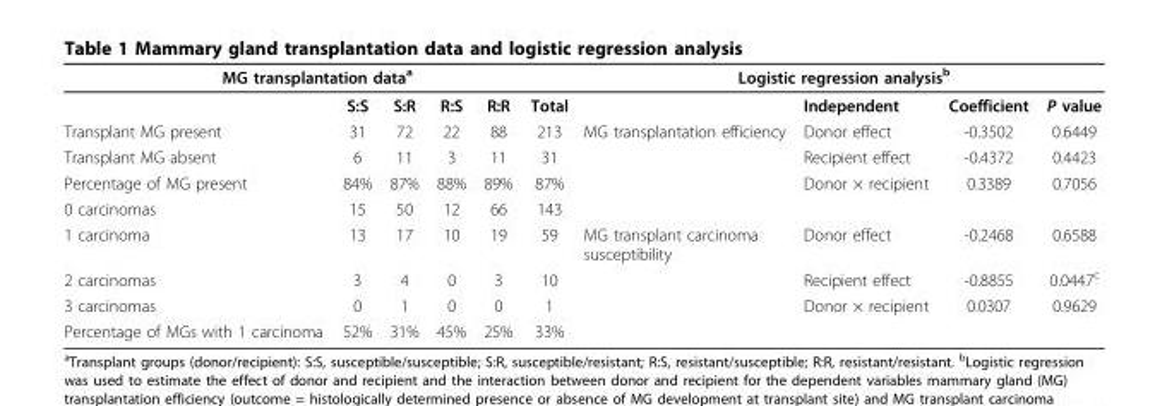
<table><thead><tr><td colspan="6">MG transplantation data<sup>a</sup></td><td colspan="4">Logistic regression analysis<sup>b</sup></td></tr><tr><td></td><td>S:S</td><td>S:R</td><td>R:S</td><td>R:R</td><td>Total</td><td></td><td>Independent</td><td>Coefficient</td><td>P value</td></tr></thead><tbody><tr><td>Transplant MG present</td><td>31</td><td>72</td><td>22</td><td>88</td><td>213</td><td>MG transplantation efficiency</td><td>Donor effect</td><td>-0.3502</td><td>0.6449</td></tr><tr><td>Transplant MG absent</td><td>6</td><td>11</td><td>3</td><td>11</td><td>31</td><td></td><td>Recipient effect</td><td>-0.4372</td><td>0.4423</td></tr><tr><td>Percentage of MG present</td><td>84%</td><td>87%</td><td>88%</td><td>89%</td><td>87%</td><td></td><td>Donor × recipient</td><td>0.3389</td><td>0.7056</td></tr><tr><td>0 carcinomas</td><td>15</td><td>50</td><td>12</td><td>66</td><td>143</td><td></td><td></td><td></td><td></td></tr><tr><td>1 carcinoma</td><td>13</td><td>17</td><td>10</td><td>19</td><td>59</td><td>MG transplant carcinoma susceptibility</td><td>Donor effect</td><td>-0.2468</td><td>0.6588</td></tr><tr><td>2 carcinomas</td><td>3</td><td>4</td><td>0</td><td>3</td><td>10</td><td></td><td>Recipient effect</td><td>-0.8855</td><td>0.0447<sup>c</sup></td></tr><tr><td>3 carcinomas</td><td>0</td><td>1</td><td>0</td><td>0</td><td>1</td><td></td><td>Donor × recipient</td><td>0.0307</td><td>0.9629</td></tr><tr><td>Percentage of MGs with 1 carcinoma</td><td>52%</td><td>31%</td><td>45%</td><td>25%</td><td>33%</td><td></td><td></td><td></td><td></td></tr></tbody></table>